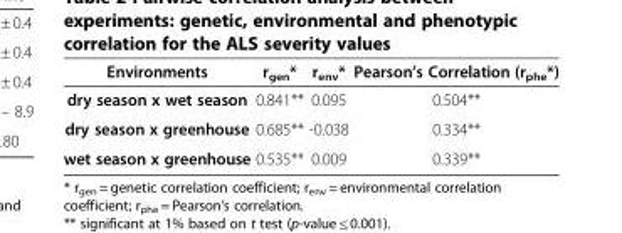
<table><thead><tr><td>Environments</td><td>r<sub>gen</sub>*</td><td>r<sub>env</sub>*</td><td>Pearson’s Correlation (r<sub>phe</sub>*)</td></tr></thead><tbody><tr><td>dry season x wet season</td><td>0.841**</td><td>0.095</td><td>0.504**</td></tr><tr><td>dry season x greenhouse</td><td>0.685**</td><td>-0.038</td><td>0.334**</td></tr><tr><td>wet season x greenhouse</td><td>0.535**</td><td>0.009</td><td>0.339**</td></tr></tbody></table>